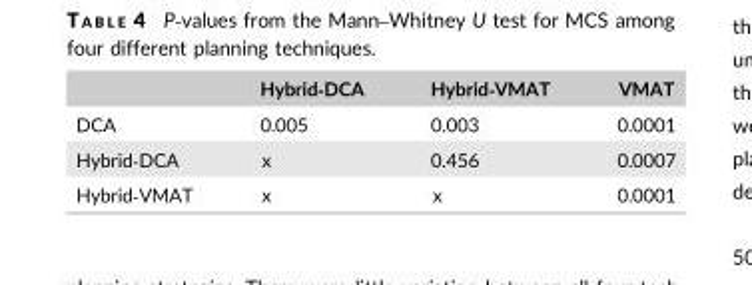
<table><thead><tr><td></td><td>Hybrid‐DCA</td><td>Hybrid‐VMAT</td><td>VMAT</td></tr></thead><tbody><tr><td>DCA</td><td>0.005</td><td>0.003</td><td>0.0001</td></tr><tr><td>Hybrid‐DCA</td><td>x</td><td>0.456</td><td>0.0007</td></tr><tr><td>Hybrid‐VMAT</td><td>x</td><td>x</td><td>0.0001</td></tr></tbody></table>